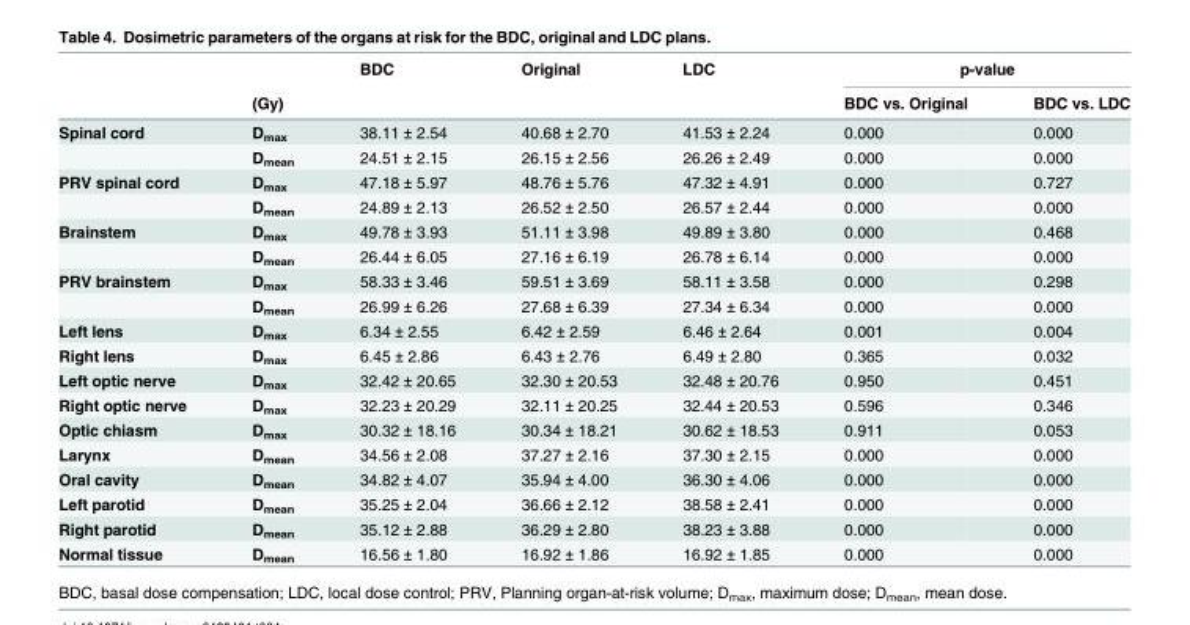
<table><thead><tr><td rowspan="2"></td><td rowspan="2">(Gy)</td><td rowspan="2">BDC</td><td rowspan="2">Original</td><td rowspan="2">LDC</td><td colspan="2">p-value</td></tr><tr><td>BDC vs. Original</td><td>BDC vs. LDC</td></tr></thead><tbody><tr><td rowspan="2">Spinal cord</td><td>D<sub>max</sub></td><td>38.11 ± 2.54</td><td>40.68 ± 2.70</td><td>41.53 ± 2.24</td><td>0.000</td><td>0.000</td></tr><tr><td>D<sub>mean</sub></td><td>24.51 ± 2.15</td><td>26.15 ± 2.56</td><td>26.26 ± 2.49</td><td>0.000</td><td>0.000</td></tr><tr><td rowspan="2">PRV spinal cord</td><td>D<sub>max</sub></td><td>47.18 ± 5.97</td><td>48.76 ± 5.76</td><td>47.32 ± 4.91</td><td>0.000</td><td>0.727</td></tr><tr><td>D<sub>mean</sub></td><td>24.89 ± 2.13</td><td>26.52 ± 2.50</td><td>26.57 ± 2.44</td><td>0.000</td><td>0.000</td></tr><tr><td rowspan="2">Brainstem</td><td>D<sub>max</sub></td><td>49.78 ± 3.93</td><td>51.11 ± 3.98</td><td>49.89 ± 3.80</td><td>0.000</td><td>0.468</td></tr><tr><td>D<sub>mean</sub></td><td>26.44 ± 6.05</td><td>27.16 ± 6.19</td><td>26.78 ± 6.14</td><td>0.000</td><td>0.000</td></tr><tr><td rowspan="2">PRV brainstem</td><td>D<sub>max</sub></td><td>58.33 ± 3.46</td><td>59.51 ± 3.69</td><td>58.11 ± 3.58</td><td>0.000</td><td>0.298</td></tr><tr><td>D<sub>mean</sub></td><td>26.99 ± 6.26</td><td>27.68 ± 6.39</td><td>27.34 ± 6.34</td><td>0.000</td><td>0.000</td></tr><tr><td>Left lens</td><td>D<sub>max</sub></td><td>6.34 ± 2.55</td><td>6.42 ± 2.59</td><td>6.46 ± 2.64</td><td>0.001</td><td>0.004</td></tr><tr><td>Right lens</td><td>D<sub>max</sub></td><td>6.45 ± 2.86</td><td>6.43 ± 2.76</td><td>6.49 ± 2.80</td><td>0.365</td><td>0.032</td></tr><tr><td>Left optic nerve</td><td>D<sub>max</sub></td><td>32.42 ± 20.65</td><td>32.30 ± 20.53</td><td>32.48 ± 20.76</td><td>0.950</td><td>0.451</td></tr><tr><td>Right optic nerve</td><td>D<sub>max</sub></td><td>32.23 ± 20.29</td><td>32.11 ± 20.25</td><td>32.44 ± 20.53</td><td>0.596</td><td>0.346</td></tr><tr><td>Optic chiasm</td><td>D<sub>max</sub></td><td>30.32 ± 18.16</td><td>30.34 ± 18.21</td><td>30.62 ± 18.53</td><td>0.911</td><td>0.053</td></tr><tr><td>Larynx</td><td>D<sub>mean</sub></td><td>34.56 ± 2.08</td><td>37.27 ± 2.16</td><td>37.30 ± 2.15</td><td>0.000</td><td>0.000</td></tr><tr><td>Oral cavity</td><td>D<sub>mean</sub></td><td>34.82 ± 4.07</td><td>35.94 ± 4.00</td><td>36.30 ± 4.06</td><td>0.000</td><td>0.000</td></tr><tr><td>Left parotid</td><td>D<sub>mean</sub></td><td>35.25 ± 2.04</td><td>36.66 ± 2.12</td><td>38.58 ± 2.41</td><td>0.000</td><td>0.000</td></tr><tr><td>Right parotid</td><td>D<sub>mean</sub></td><td>35.12 ± 2.88</td><td>36.29 ± 2.80</td><td>38.23 ± 3.88</td><td>0.000</td><td>0.000</td></tr><tr><td>Normal tissue</td><td>D<sub>mean</sub></td><td>16.56 ± 1.80</td><td>16.92 ± 1.86</td><td>16.92 ± 1.85</td><td>0.000</td><td>0.000</td></tr></tbody></table>